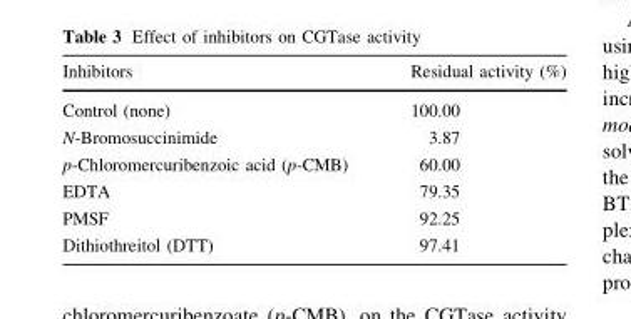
<table><thead><tr><td>Inhibitors</td><td>Residual activity (%)</td></tr></thead><tbody><tr><td>Control (none)</td><td>100.00</td></tr><tr><td>N-Bromosuccinimide</td><td>3.87</td></tr><tr><td>p-Chloromercuribenzoic acid (p-CMB)</td><td>60.00</td></tr><tr><td>EDTA</td><td>79.35</td></tr><tr><td>PMSF</td><td>92.25</td></tr><tr><td>Dithiothreitol (DTT)</td><td>97.41</td></tr></tbody></table>